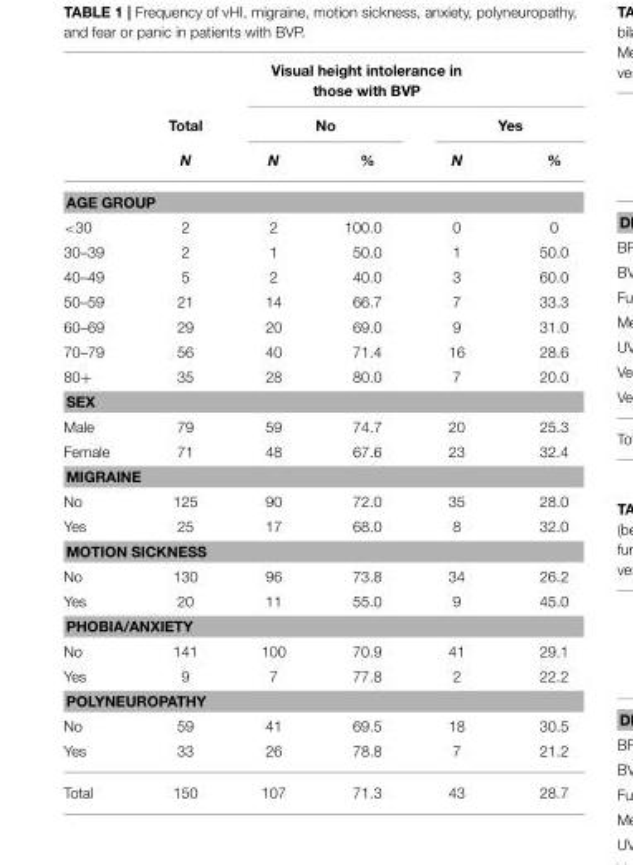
<table><thead><tr><td rowspan="3"></td><td rowspan="3">Total N</td><td colspan="4">Visual height intolerance in those with BVP</td></tr><tr><td colspan="2">No</td><td colspan="2">Yes</td></tr><tr><td>N</td><td>%</td><td>N</td><td>%</td></tr></thead><tbody><tr><td colspan="6">AGE GROUP</td></tr><tr><td>&lt;30</td><td>2</td><td>2</td><td>100.0</td><td>0</td><td>0</td></tr><tr><td>30–39</td><td>2</td><td>1</td><td>50.0</td><td>1</td><td>50.0</td></tr><tr><td>40–49</td><td>5</td><td>2</td><td>40.0</td><td>3</td><td>60.0</td></tr><tr><td>50–59</td><td>21</td><td>14</td><td>66.7</td><td>7</td><td>33.3</td></tr><tr><td>60–69</td><td>29</td><td>20</td><td>69.0</td><td>9</td><td>31.0</td></tr><tr><td>70–79</td><td>56</td><td>40</td><td>71.4</td><td>16</td><td>28.6</td></tr><tr><td>80+</td><td>35</td><td>28</td><td>80.0</td><td>7</td><td>20.0</td></tr><tr><td colspan="6">SEX</td></tr><tr><td>Male</td><td>79</td><td>59</td><td>74.7</td><td>20</td><td>25.3</td></tr><tr><td>Female</td><td>71</td><td>48</td><td>67.6</td><td>23</td><td>32.4</td></tr><tr><td colspan="6">MIGRAINE</td></tr><tr><td>No</td><td>125</td><td>90</td><td>72.0</td><td>35</td><td>28.0</td></tr><tr><td>Yes</td><td>25</td><td>17</td><td>68.0</td><td>8</td><td>32.0</td></tr><tr><td colspan="6">MOTION SICKNESS</td></tr><tr><td>No</td><td>130</td><td>96</td><td>73.8</td><td>34</td><td>26.2</td></tr><tr><td>Yes</td><td>20</td><td>11</td><td>55.0</td><td>9</td><td>45.0</td></tr><tr><td colspan="6">PHOBIA/ANXIETY</td></tr><tr><td>No</td><td>141</td><td>100</td><td>70.9</td><td>41</td><td>29.1</td></tr><tr><td>Yes</td><td>9</td><td>7</td><td>77.8</td><td>2</td><td>22.2</td></tr><tr><td colspan="6">POLYNEUROPATHY</td></tr><tr><td>No</td><td>59</td><td>41</td><td>69.5</td><td>18</td><td>30.5</td></tr><tr><td>Yes</td><td>33</td><td>26</td><td>78.8</td><td>7</td><td>21.2</td></tr><tr><td>Total</td><td>150</td><td>107</td><td>71.3</td><td>43</td><td>28.7</td></tr></tbody></table>